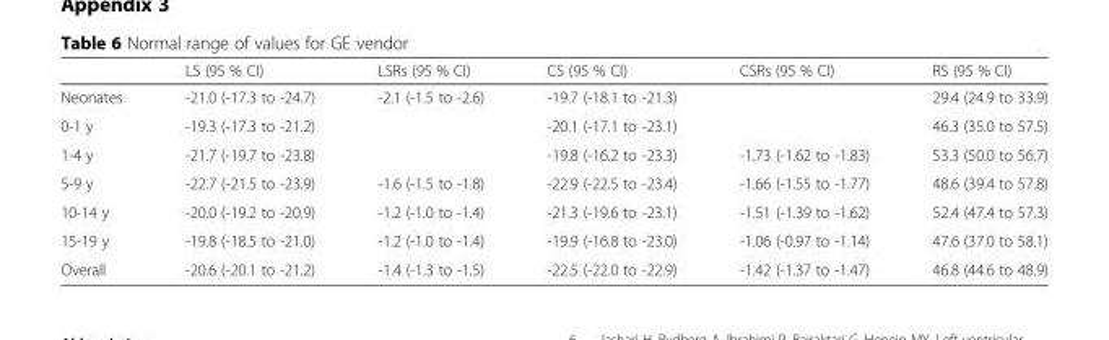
<table><thead><tr><td></td><td>LS (95 % CI)</td><td>LSRs (95 % CI)</td><td>CS (95 % CI)</td><td>CSRs (95 % CI)</td><td>RS (95 % CI)</td></tr></thead><tbody><tr><td>Neonates</td><td>-21.0 (-17.3 to -24.7)</td><td>-2.1 (-1.5 to -2.6)</td><td>-19.7 (-18.1 to -21.3)</td><td></td><td>29.4 (24.9 to 33.9)</td></tr><tr><td>0-1 y</td><td>-19.3 (-17.3 to -21.2)</td><td></td><td>-20.1 (-17.1 to -23.1)</td><td></td><td>46.3 (35.0 to 57.5)</td></tr><tr><td>1-4 y</td><td>-21.7 (-19.7 to -23.8)</td><td></td><td>-19.8 (-16.2 to -23.3)</td><td>-1.73 (-1.62 to -1.83)</td><td>53.3 (50.0 to 56.7)</td></tr><tr><td>5-9 y</td><td>-22.7 (-21.5 to -23.9)</td><td>-1.6 (-1.5 to -1.8)</td><td>-22.9 (-22.5 to -23.4)</td><td>-1.66 (-1.55 to -1.77)</td><td>48.6 (39.4 to 57.8)</td></tr><tr><td>10-14 y</td><td>-20.0 (-19.2 to -20.9)</td><td>-1.2 (-1.0 to -1.4)</td><td>-21.3 (-19.6 to -23.1)</td><td>-1.51 (-1.39 to -1.62)</td><td>52.4 (47.4 to 57.3)</td></tr><tr><td>15-19 y</td><td>-19.8 (-18.5 to -21.0)</td><td>-1.2 (-1.0 to -1.4)</td><td>-19.9 (-16.8 to -23.0)</td><td>-1.06 (-0.97 to -1.14)</td><td>47.6 (37.0 to 58.1)</td></tr><tr><td>Overall</td><td>-20.6 (-20.1 to -21.2)</td><td>-1.4 (-1.3 to -1.5)</td><td>-22.5 (-22.0 to -22.9)</td><td>-1.42 (-1.37 to -1.47)</td><td>46.8 (44.6 to 48.9)</td></tr></tbody></table>